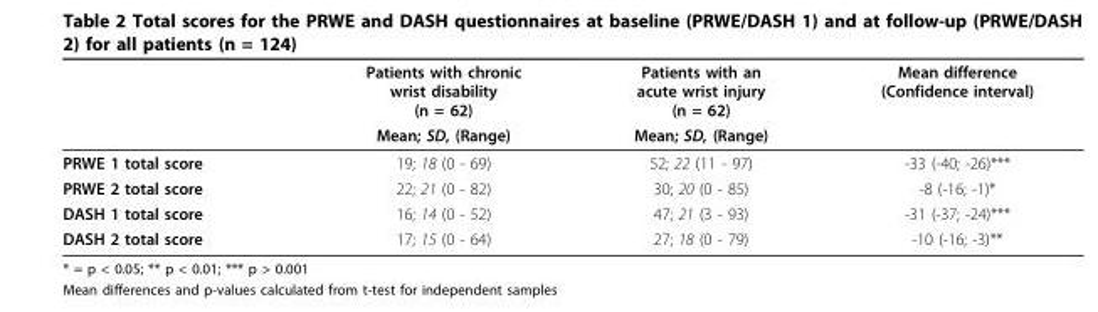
<table><thead><tr><td rowspan="2"></td><td rowspan="2">Patients with chronic wrist disability (n = 62) Mean; SD, (Range)</td><td rowspan="2">Patients with an acute wrist injury (n = 62) Mean; SD, (Range)</td><td rowspan="2">Mean difference (Confidence interval)</td></tr><tr></tr></thead><tbody><tr><td>PRWE 1 total score</td><td>19; 18 (0 - 69)</td><td>52; 22 (11 - 97)</td><td>-33 (-40; -26)***</td></tr><tr><td>PRWE 2 total score</td><td>22; 21 (0 - 82)</td><td>30; 20 (0 - 85)</td><td>-8 (-16; -1)*</td></tr><tr><td>DASH 1 total score</td><td>16; 14 (0 - 52)</td><td>47; 21 (3 - 93)</td><td>-31 (-37; -24)***</td></tr><tr><td>DASH 2 total score</td><td>17; 15 (0 - 64)</td><td>27; 18 (0 - 79)</td><td>-10 (-16; -3)**</td></tr></tbody></table>